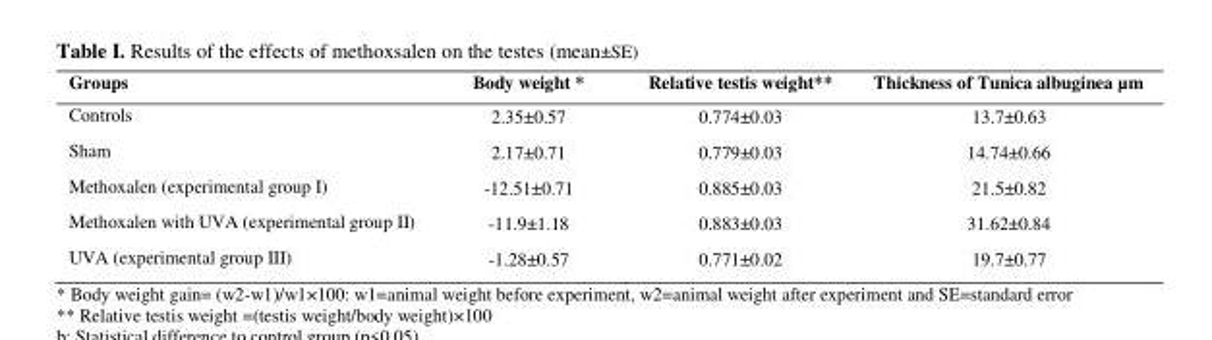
<table><thead><tr><td>Groups</td><td>Body weight *</td><td>Relative testis weight**</td><td>Thickness of Tunica albuginea µm</td></tr></thead><tbody><tr><td>Controls</td><td>2.35±0.57</td><td>0.774±0.03</td><td>13.7±0.63</td></tr><tr><td>Sham</td><td>2.17±0.71</td><td>0.779±0.03</td><td>14.74±0.66</td></tr><tr><td>Methoxalen (experimental group I)</td><td>-12.51±0.71</td><td>0.885±0.03</td><td>21.5±0.82</td></tr><tr><td>Methoxalen with UVA (experimental group II)</td><td>-11.9±1.18</td><td>0.883±0.03</td><td>31.62±0.84</td></tr><tr><td>UVA (experimental group III)</td><td>-1.28±0.57</td><td>0.771±0.02</td><td>19.7±0.77</td></tr></tbody></table>